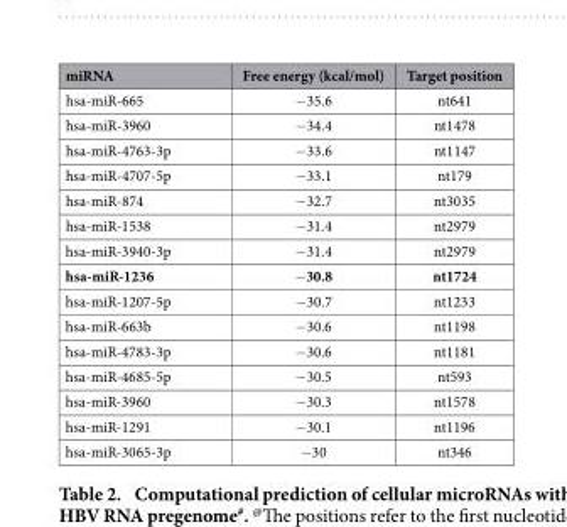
<table><thead><tr><td>miRNA</td><td>Free energy (kcal/mol)</td><td>Target position</td></tr></thead><tbody><tr><td>hsa-miR-665</td><td>−35.6</td><td>nt641</td></tr><tr><td>hsa-miR-3960</td><td>−34.4</td><td>nt1478</td></tr><tr><td>hsa-miR-4763-3p</td><td>−33.6</td><td>nt1147</td></tr><tr><td>hsa-miR-4707-5p</td><td>−33.1</td><td>nt179</td></tr><tr><td>hsa-miR-874</td><td>−32.7</td><td>nt3035</td></tr><tr><td>hsa-miR-1538</td><td>−31.4</td><td>nt2979</td></tr><tr><td>hsa-miR-3940-3p</td><td>−31.4</td><td>nt2979</td></tr><tr><td>hsa-miR-1236</td><td>−30.8</td><td>nt1724</td></tr><tr><td>hsa-miR-1207-5p</td><td>−30.7</td><td>nt1233</td></tr><tr><td>hsa-miR-663b</td><td>−30.6</td><td>nt1198</td></tr><tr><td>hsa-miR-4783-3p</td><td>−30.6</td><td>nt1181</td></tr><tr><td>hsa-miR-4685-5p</td><td>−30.5</td><td>nt593</td></tr><tr><td>hsa-miR-3960</td><td>−30.3</td><td>nt1578</td></tr><tr><td>hsa-miR-1291</td><td>−30.1</td><td>nt1196</td></tr><tr><td>hsa-miR-3065-3p</td><td>−30</td><td>nt346</td></tr></tbody></table>